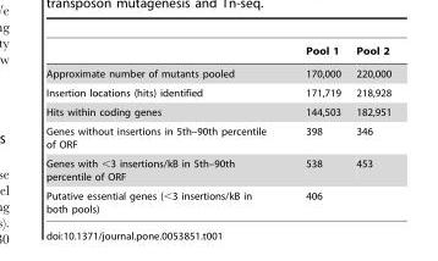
<table><thead><tr><td></td><td>Pool 1</td><td>Pool 2</td></tr></thead><tbody><tr><td>Approximate number of mutants pooled</td><td>170,000</td><td>220,000</td></tr><tr><td>Insertion locations (hits) identified</td><td>171,719</td><td>218,928</td></tr><tr><td>Hits within coding genes</td><td>144,503</td><td>182,951</td></tr><tr><td>Genes without insertions in 5th–90th percentile of ORF</td><td>398</td><td>346</td></tr><tr><td>Genes with &lt;3 insertions/kB in 5th–90th percentile of ORF</td><td>538</td><td>453</td></tr><tr><td>Putative essential genes (&lt;3 insertions/kB in both pools)</td><td colspan="2">406</td></tr></tbody></table>